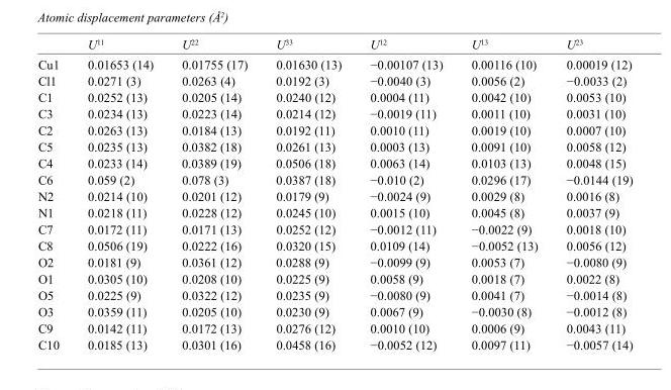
<table><thead><tr><td></td><td>U<sup>11</sup></td><td>U<sup>22</sup></td><td>U<sup>33</sup></td><td>U<sup>12</sup></td><td>U<sup>13</sup></td><td>U<sup>23</sup></td></tr></thead><tbody><tr><td>Cu1</td><td>0.01653 (14)</td><td>0.01755 (17)</td><td>0.01630 (13)</td><td>−0.00107 (13)</td><td>0.00116 (10)</td><td>0.00019 (12)</td></tr><tr><td>Cl1</td><td>0.0271 (3)</td><td>0.0263 (4)</td><td>0.0192 (3)</td><td>−0.0040 (3)</td><td>0.0056 (2)</td><td>−0.0033 (2)</td></tr><tr><td>C1</td><td>0.0252 (13)</td><td>0.0205 (14)</td><td>0.0240 (12)</td><td>0.0004 (11)</td><td>0.0042 (10)</td><td>0.0053 (10)</td></tr><tr><td>C3</td><td>0.0234 (13)</td><td>0.0223 (14)</td><td>0.0214 (12)</td><td>−0.0019 (11)</td><td>0.0011 (10)</td><td>0.0031 (10)</td></tr><tr><td>C2</td><td>0.0263 (13)</td><td>0.0184 (13)</td><td>0.0192 (11)</td><td>0.0010 (11)</td><td>0.0019 (10)</td><td>0.0007 (10)</td></tr><tr><td>C5</td><td>0.0235 (13)</td><td>0.0382 (18)</td><td>0.0261 (13)</td><td>0.0003 (13)</td><td>0.0091 (10)</td><td>0.0058 (12)</td></tr><tr><td>C4</td><td>0.0233 (14)</td><td>0.0389 (19)</td><td>0.0506 (18)</td><td>0.0063 (14)</td><td>0.0103 (13)</td><td>0.0048 (15)</td></tr><tr><td>C6</td><td>0.059 (2)</td><td>0.078 (3)</td><td>0.0387 (18)</td><td>−0.010 (2)</td><td>0.0296 (17)</td><td>−0.0144 (19)</td></tr><tr><td>N2</td><td>0.0214 (10)</td><td>0.0201 (12)</td><td>0.0179 (9)</td><td>−0.0024 (9)</td><td>0.0029 (8)</td><td>0.0016 (8)</td></tr><tr><td>N1</td><td>0.0218 (11)</td><td>0.0228 (12)</td><td>0.0245 (10)</td><td>0.0015 (10)</td><td>0.0045 (8)</td><td>0.0037 (9)</td></tr><tr><td>C7</td><td>0.0172 (11)</td><td>0.0171 (13)</td><td>0.0252 (12)</td><td>−0.0012 (11)</td><td>−0.0022 (9)</td><td>0.0018 (10)</td></tr><tr><td>C8</td><td>0.0506 (19)</td><td>0.0222 (16)</td><td>0.0320 (15)</td><td>0.0109 (14)</td><td>−0.0052 (13)</td><td>0.0056 (12)</td></tr><tr><td>O2</td><td>0.0181 (9)</td><td>0.0361 (12)</td><td>0.0288 (9)</td><td>−0.0099 (9)</td><td>0.0053 (7)</td><td>−0.0080 (9)</td></tr><tr><td>O1</td><td>0.0305 (10)</td><td>0.0208 (10)</td><td>0.0225 (9)</td><td>0.0058 (9)</td><td>0.0018 (7)</td><td>0.0022 (8)</td></tr><tr><td>O5</td><td>0.0225 (9)</td><td>0.0322 (12)</td><td>0.0235 (9)</td><td>−0.0080 (9)</td><td>0.0041 (7)</td><td>−0.0014 (8)</td></tr><tr><td>O3</td><td>0.0359 (11)</td><td>0.0205 (10)</td><td>0.0230 (9)</td><td>0.0067 (9)</td><td>−0.0030 (8)</td><td>−0.0012 (8)</td></tr><tr><td>C9</td><td>0.0142 (11)</td><td>0.0172 (13)</td><td>0.0276 (12)</td><td>0.0010 (10)</td><td>0.0006 (9)</td><td>0.0043 (11)</td></tr><tr><td>C10</td><td>0.0185 (13)</td><td>0.0301 (16)</td><td>0.0458 (16)</td><td>−0.0052 (12)</td><td>0.0097 (11)</td><td>−0.0057 (14)</td></tr></tbody></table>